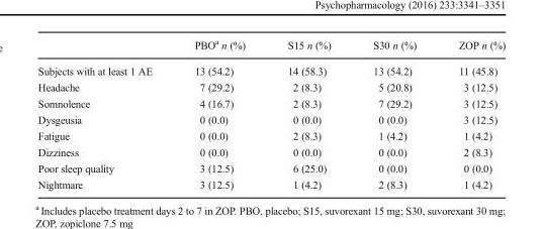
<table><thead><tr><td></td><td>PBO<sup>a</sup> n (%)</td><td>S15 n (%)</td><td>S30 n (%)</td><td>ZOP n (%)</td></tr></thead><tbody><tr><td>Subjects with at least 1 AE</td><td>13 (54.2)</td><td>14 (58.3)</td><td>13 (54.2)</td><td>11 (45.8)</td></tr><tr><td>Headache</td><td>7 (29.2)</td><td>2 (8.3)</td><td>5 (20.8)</td><td>3 (12.5)</td></tr><tr><td>Somnolence</td><td>4 (16.7)</td><td>2 (8.3)</td><td>7 (29.2)</td><td>3 (12.5)</td></tr><tr><td>Dysgeusia</td><td>0 (0.0)</td><td>0 (0.0)</td><td>0 (0.0)</td><td>3 (12.5)</td></tr><tr><td>Fatigue</td><td>0 (0.0)</td><td>2 (8.3)</td><td>1 (4.2)</td><td>1 (4.2)</td></tr><tr><td>Dizziness</td><td>0 (0.0)</td><td>0 (0.0)</td><td>0 (0.0)</td><td>2 (8.3)</td></tr><tr><td>Poor sleep quality</td><td>3 (12.5)</td><td>6 (25.0)</td><td>0 (0.0)</td><td>0 (0.0)</td></tr><tr><td>Nightmare</td><td>3 (12.5)</td><td>1 (4.2)</td><td>2 (8.3)</td><td>1 (4.2)</td></tr></tbody></table>